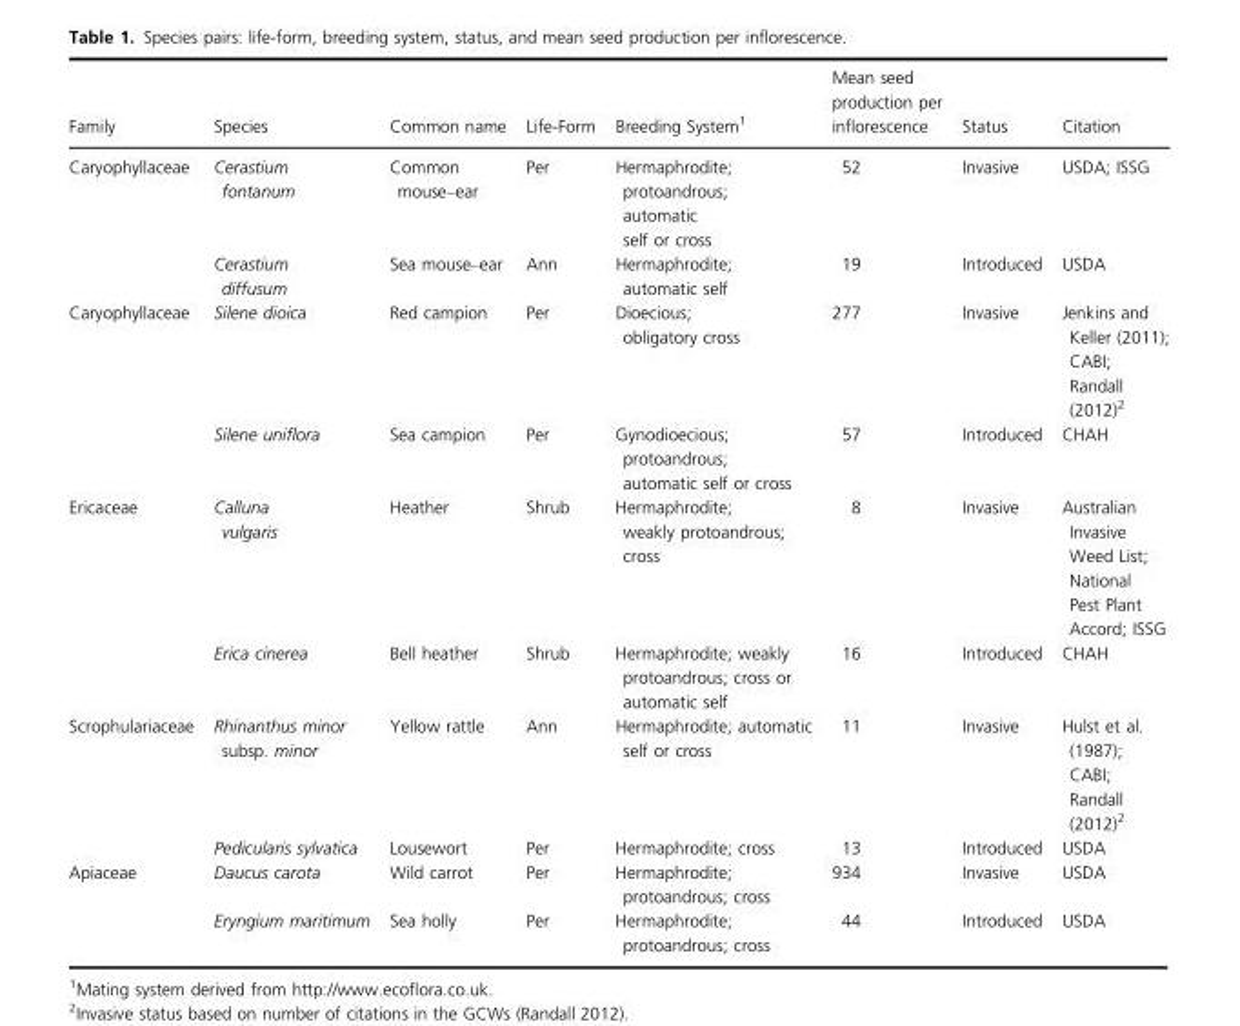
<table><thead><tr><td>Family</td><td>Species</td><td>Common name</td><td>Life-Form</td><td>Breeding System<sup>1</sup></td><td>Mean seed production per inflorescence</td><td>Status</td><td>Citation</td></tr></thead><tbody><tr><td rowspan="2">Caryophyllaceae</td><td>Cerastium fontanum</td><td>Common mouse–ear</td><td>Per</td><td>Hermaphrodite; protoandrous; automatic self or cross</td><td>52</td><td>Invasive</td><td>USDA; ISSG</td></tr><tr><td>Cerastium diffusum</td><td>Sea mouse–ear</td><td>Ann</td><td>Hermaphrodite; automatic self</td><td>19</td><td>Introduced</td><td>USDA</td></tr><tr><td rowspan="2">Caryophyllaceae</td><td>Silene dioica</td><td>Red campion</td><td>Per</td><td>Dioecious; obligatory cross</td><td>277</td><td>Invasive</td><td>Jenkins and Keller (2011); CABI; Randall (2012)<sup>2</sup></td></tr><tr><td>Silene uniflora</td><td>Sea campion</td><td>Per</td><td>Gynodioecious; protoandrous; automatic self or cross</td><td>57</td><td>Introduced</td><td>CHAH</td></tr><tr><td rowspan="2">Ericaceae</td><td>Calluna vulgaris</td><td>Heather</td><td>Shrub</td><td>Hermaphrodite; weakly protoandrous; cross</td><td>8</td><td>Invasive</td><td>Australian Invasive Weed List; National Pest Plant Accord; ISSG</td></tr><tr><td>Erica cinerea</td><td>Bell heather</td><td>Shrub</td><td>Hermaphrodite; weakly protoandrous; cross or automatic self</td><td>16</td><td>Introduced</td><td>CHAH</td></tr><tr><td rowspan="2">Scrophulariaceae</td><td>Rhinanthus minor subsp. minor</td><td>Yellow rattle</td><td>Ann</td><td>Hermaphrodite; automatic self or cross</td><td>11</td><td>Invasive</td><td>Hulst et al. (1987); CABI; Randall (2012)<sup>2</sup></td></tr><tr><td>Pedicularis sylvatica</td><td>Lousewort</td><td>Per</td><td>Hermaphrodite; cross</td><td>13</td><td>Introduced</td><td>USDA</td></tr><tr><td rowspan="2">Apiaceae</td><td>Daucus carota</td><td>Wild carrot</td><td>Per</td><td>Hermaphrodite; protoandrous; cross</td><td>934</td><td>Invasive</td><td>USDA</td></tr><tr><td>Eryngium maritimum</td><td>Sea holly</td><td>Per</td><td>Hermaphrodite; protoandrous; cross</td><td>44</td><td>Introduced</td><td>USDA</td></tr></tbody></table>